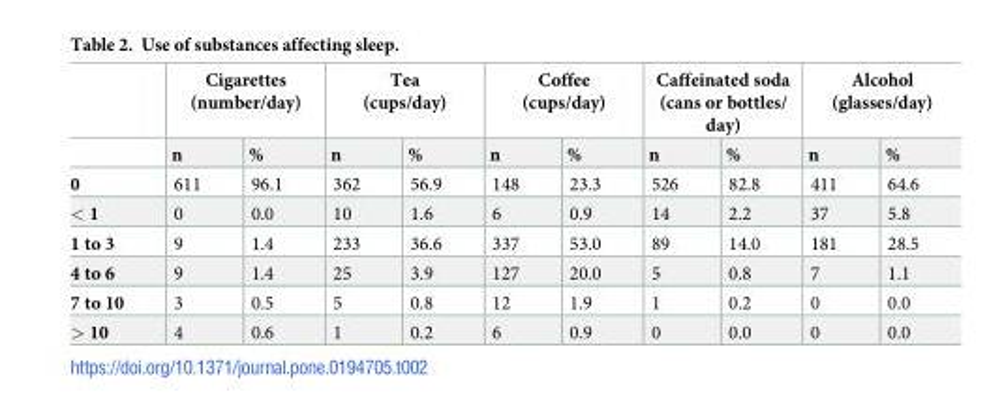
<table><thead><tr><td rowspan="2"></td><td colspan="2">Cigarettes (number/day)</td><td colspan="2">Tea (cups/day)</td><td colspan="2">Coffee (cups/day)</td><td colspan="2">Caffeinated soda (cans or bottles/ day)</td><td colspan="2">Alcohol (glasses/day)</td></tr><tr><td>n</td><td>%</td><td>n</td><td>%</td><td>n</td><td>%</td><td>n</td><td>%</td><td>n</td><td>%</td></tr></thead><tbody><tr><td>0</td><td>611</td><td>96.1</td><td>362</td><td>56.9</td><td>148</td><td>23.3</td><td>526</td><td>82.8</td><td>411</td><td>64.6</td></tr><tr><td>&lt; 1</td><td>0</td><td>0.0</td><td>10</td><td>1.6</td><td>6</td><td>0.9</td><td>14</td><td>2.2</td><td>37</td><td>5.8</td></tr><tr><td>1 to 3</td><td>9</td><td>1.4</td><td>233</td><td>36.6</td><td>337</td><td>53.0</td><td>89</td><td>14.0</td><td>181</td><td>28.5</td></tr><tr><td>4 to 6</td><td>9</td><td>1.4</td><td>25</td><td>3.9</td><td>127</td><td>20.0</td><td>5</td><td>0.8</td><td>7</td><td>1.1</td></tr><tr><td>7 to 10</td><td>3</td><td>0.5</td><td>5</td><td>0.8</td><td>12</td><td>1.9</td><td>1</td><td>0.2</td><td>0</td><td>0.0</td></tr><tr><td>&gt; 10</td><td>4</td><td>0.6</td><td>1</td><td>0.2</td><td>6</td><td>0.9</td><td>0</td><td>0.0</td><td>0</td><td>0.0</td></tr></tbody></table>